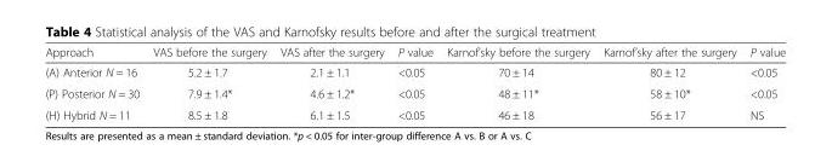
<table><thead><tr><td>Approach</td><td>VAS before the surgery</td><td>VAS after the surgery</td><td>P value</td><td>Karnof’sky before the surgery</td><td>Karnof’sky after the surgery</td><td>P value</td></tr></thead><tbody><tr><td>(A) Anterior N = 16</td><td>5.2 ± 1.7</td><td>2.1 ± 1.1</td><td>&lt;0.05</td><td>70 ± 14</td><td>80 ± 12</td><td>&lt;0.05</td></tr><tr><td>(P) Posterior N = 30</td><td>7.9 ± 1.4*</td><td>4.6 ± 1.2*</td><td>&lt;0.05</td><td>48 ± 11*</td><td>58 ± 10*</td><td>&lt;0.05</td></tr><tr><td>(H) Hybrid N = 11</td><td>8.5 ± 1.8</td><td>6.1 ± 1.5</td><td>&lt;0.05</td><td>46 ± 18</td><td>56 ± 17</td><td>NS</td></tr></tbody></table>